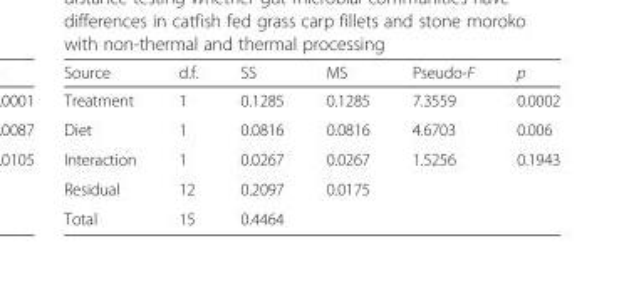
<table><thead><tr><td>Source</td><td>d.f.</td><td>SS</td><td>MS</td><td>Pseudo-F</td><td>p</td></tr></thead><tbody><tr><td>Treatment</td><td>1</td><td>0.1285</td><td>0.1285</td><td>7.3559</td><td>0.0002</td></tr><tr><td>Diet</td><td>1</td><td>0.0816</td><td>0.0816</td><td>4.6703</td><td>0.006</td></tr><tr><td>Interaction</td><td>1</td><td>0.0267</td><td>0.0267</td><td>1.5256</td><td>0.1943</td></tr><tr><td>Residual</td><td>12</td><td>0.2097</td><td>0.0175</td><td></td><td></td></tr><tr><td>Total</td><td>15</td><td>0.4464</td><td></td><td></td><td></td></tr></tbody></table>